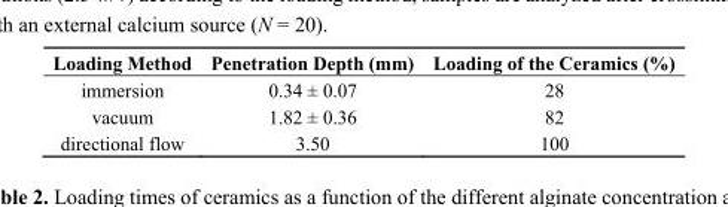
<table><thead><tr><td>Loading Method</td><td>Penetration Depth (mm)</td><td>Loading of the Ceramics (%)</td></tr></thead><tbody><tr><td>immersion</td><td>0.34 ± 0.07</td><td>28</td></tr><tr><td>vacuum</td><td>1.82 ± 0.36</td><td>82</td></tr><tr><td>directional flow</td><td>3.50</td><td>100</td></tr></tbody></table>